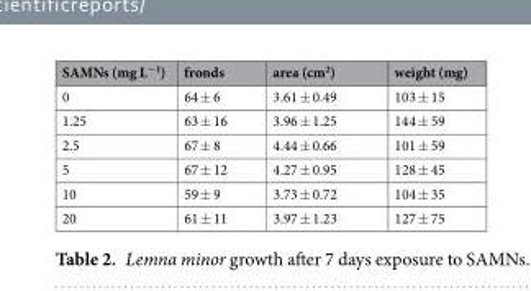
<table><thead><tr><td>SAMNs (mg L<sup>−1</sup>)</td><td>fronds</td><td>area (cm<sup>2</sup>)</td><td>weight (mg)</td></tr></thead><tbody><tr><td>0</td><td>64 ± 6</td><td>3.61 ± 0.49</td><td>103 ± 15</td></tr><tr><td>1.25</td><td>63 ± 16</td><td>3.96 ± 1.25</td><td>144 ± 59</td></tr><tr><td>2.5</td><td>67 ± 8</td><td>4.44 ± 0.66</td><td>101 ± 59</td></tr><tr><td>5</td><td>67 ± 12</td><td>4.27 ± 0.95</td><td>128 ± 45</td></tr><tr><td>10</td><td>59 ± 9</td><td>3.73 ± 0.72</td><td>104 ± 35</td></tr><tr><td>20</td><td>61 ± 11</td><td>3.97 ± 1.23</td><td>127 ± 75</td></tr></tbody></table>